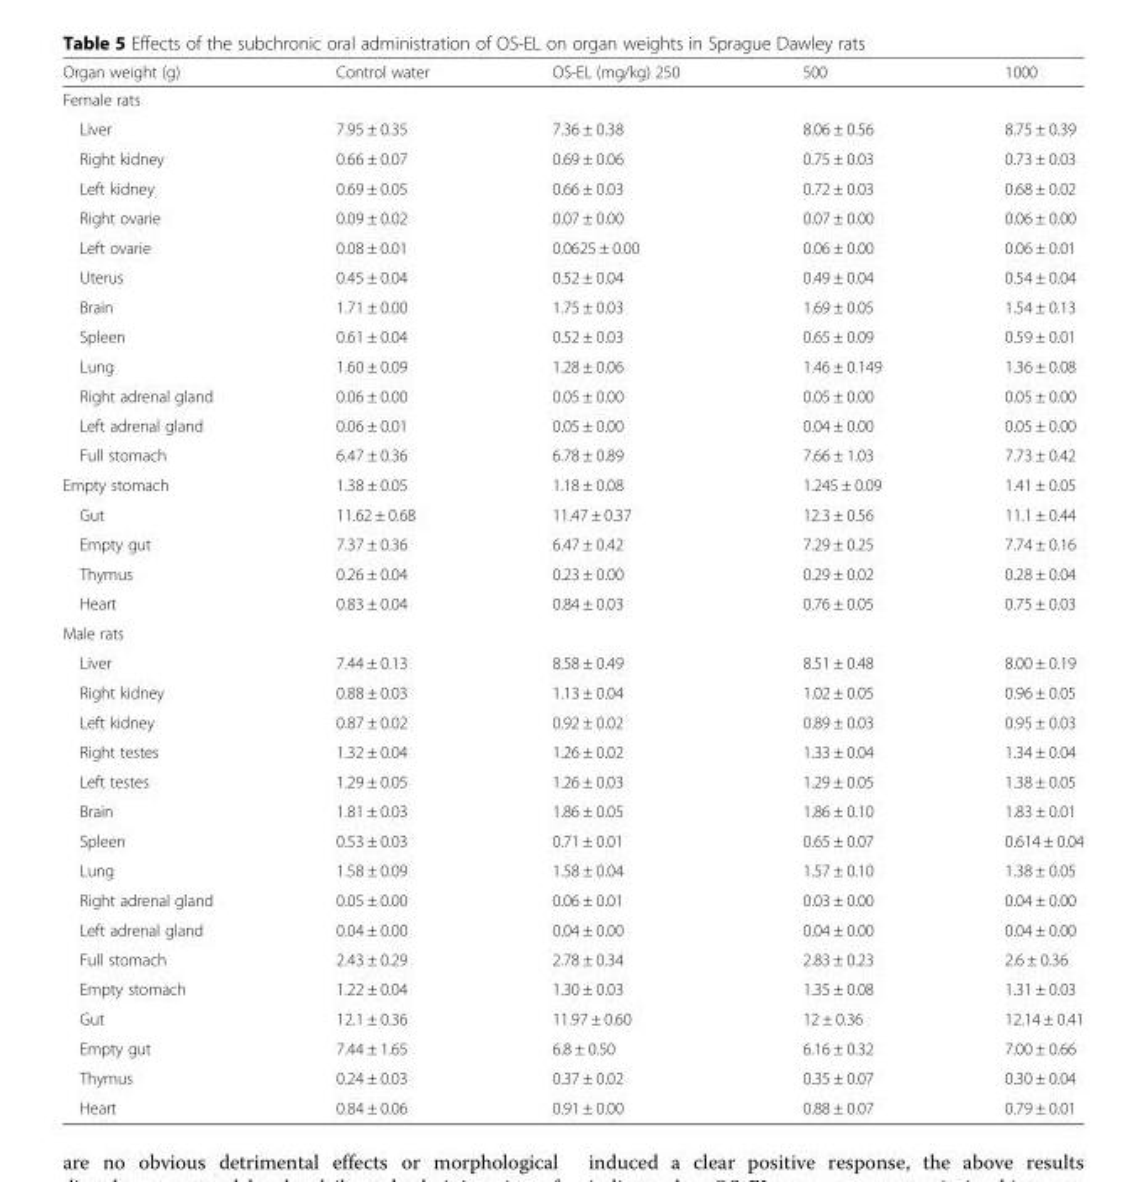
<table><thead><tr><td>Organ weight (g)</td><td>Control water</td><td>OS-EL (mg/kg) 250</td><td>500</td><td>1000</td></tr></thead><tbody><tr><td colspan="5">Female rats</td></tr><tr><td>Liver</td><td>7.95 ± 0.35</td><td>7.36 ± 0.38</td><td>8.06 ± 0.56</td><td>8.75 ± 0.39</td></tr><tr><td>Right kidney</td><td>0.66 ± 0.07</td><td>0.69 ± 0.06</td><td>0.75 ± 0.03</td><td>0.73 ± 0.03</td></tr><tr><td>Left kidney</td><td>0.69 ± 0.05</td><td>0.66 ± 0.03</td><td>0.72 ± 0.03</td><td>0.68 ± 0.02</td></tr><tr><td>Right ovarie</td><td>0.09 ± 0.02</td><td>0.07 ± 0.00</td><td>0.07 ± 0.00</td><td>0.06 ± 0.00</td></tr><tr><td>Left ovarie</td><td>0.08 ± 0.01</td><td>0.0625 ± 0.00</td><td>0.06 ± 0.00</td><td>0.06 ± 0.01</td></tr><tr><td>Uterus</td><td>0.45 ± 0.04</td><td>0.52 ± 0.04</td><td>0.49 ± 0.04</td><td>0.54 ± 0.04</td></tr><tr><td>Brain</td><td>1.71 ± 0.00</td><td>1.75 ± 0.03</td><td>1.69 ± 0.05</td><td>1.54 ± 0.13</td></tr><tr><td>Spleen</td><td>0.61 ± 0.04</td><td>0.52 ± 0.03</td><td>0.65 ± 0.09</td><td>0.59 ± 0.01</td></tr><tr><td>Lung</td><td>1.60 ± 0.09</td><td>1.28 ± 0.06</td><td>1.46 ± 0.149</td><td>1.36 ± 0.08</td></tr><tr><td>Right adrenal gland</td><td>0.06 ± 0.00</td><td>0.05 ± 0.00</td><td>0.05 ± 0.00</td><td>0.05 ± 0.00</td></tr><tr><td>Left adrenal gland</td><td>0.06 ± 0.01</td><td>0.05 ± 0.00</td><td>0.04 ± 0.00</td><td>0.05 ± 0.00</td></tr><tr><td>Full stomach</td><td>6.47 ± 0.36</td><td>6.78 ± 0.89</td><td>7.66 ± 1.03</td><td>7.73 ± 0.42</td></tr><tr><td>Empty stomach</td><td>1.38 ± 0.05</td><td>1.18 ± 0.08</td><td>1.245 ± 0.09</td><td>1.41 ± 0.05</td></tr><tr><td>Gut</td><td>11.62 ± 0.68</td><td>11.47 ± 0.37</td><td>12.3 ± 0.56</td><td>11.1 ± 0.44</td></tr><tr><td>Empty gut</td><td>7.37 ± 0.36</td><td>6.47 ± 0.42</td><td>7.29 ± 0.25</td><td>7.74 ± 0.16</td></tr><tr><td>Thymus</td><td>0.26 ± 0.04</td><td>0.23 ± 0.00</td><td>0.29 ± 0.02</td><td>0.28 ± 0.04</td></tr><tr><td>Heart</td><td>0.83 ± 0.04</td><td>0.84 ± 0.03</td><td>0.76 ± 0.05</td><td>0.75 ± 0.03</td></tr><tr><td colspan="5">Male rats</td></tr><tr><td>Liver</td><td>7.44 ± 0.13</td><td>8.58 ± 0.49</td><td>8.51 ± 0.48</td><td>8.00 ± 0.19</td></tr><tr><td>Right kidney</td><td>0.88 ± 0.03</td><td>1.13 ± 0.04</td><td>1.02 ± 0.05</td><td>0.96 ± 0.05</td></tr><tr><td>Left kidney</td><td>0.87 ± 0.02</td><td>0.92 ± 0.02</td><td>0.89 ± 0.03</td><td>0.95 ± 0.03</td></tr><tr><td>Right testes</td><td>1.32 ± 0.04</td><td>1.26 ± 0.02</td><td>1.33 ± 0.04</td><td>1.34 ± 0.04</td></tr><tr><td>Left testes</td><td>1.29 ± 0.05</td><td>1.26 ± 0.03</td><td>1.29 ± 0.05</td><td>1.38 ± 0.05</td></tr><tr><td>Brain</td><td>1.81 ± 0.03</td><td>1.86 ± 0.05</td><td>1.86 ± 0.10</td><td>1.83 ± 0.01</td></tr><tr><td>Spleen</td><td>0.53 ± 0.03</td><td>0.71 ± 0.01</td><td>0.65 ± 0.07</td><td>0.614 ± 0.04</td></tr><tr><td>Lung</td><td>1.58 ± 0.09</td><td>1.58 ± 0.04</td><td>1.57 ± 0.10</td><td>1.38 ± 0.05</td></tr><tr><td>Right adrenal gland</td><td>0.05 ± 0.00</td><td>0.06 ± 0.01</td><td>0.03 ± 0.00</td><td>0.04 ± 0.00</td></tr><tr><td>Left adrenal gland</td><td>0.04 ± 0.00</td><td>0.04 ± 0.00</td><td>0.04 ± 0.00</td><td>0.04 ± 0.00</td></tr><tr><td>Full stomach</td><td>2.43 ± 0.29</td><td>2.78 ± 0.34</td><td>2.83 ± 0.23</td><td>2.6 ± 0.36</td></tr><tr><td>Empty stomach</td><td>1.22 ± 0.04</td><td>1.30 ± 0.03</td><td>1.35 ± 0.08</td><td>1.31 ± 0.03</td></tr><tr><td>Gut</td><td>12.1 ± 0.36</td><td>11.97 ± 0.60</td><td>12 ± 0.36</td><td>12.14 ± 0.41</td></tr><tr><td>Empty gut</td><td>7.44 ± 1.65</td><td>6.8 ± 0.50</td><td>6.16 ± 0.32</td><td>7.00 ± 0.66</td></tr><tr><td>Thymus</td><td>0.24 ± 0.03</td><td>0.37 ± 0.02</td><td>0.35 ± 0.07</td><td>0.30 ± 0.04</td></tr><tr><td>Heart</td><td>0.84 ± 0.06</td><td>0.91 ± 0.00</td><td>0.88 ± 0.07</td><td>0.79 ± 0.01</td></tr></tbody></table>